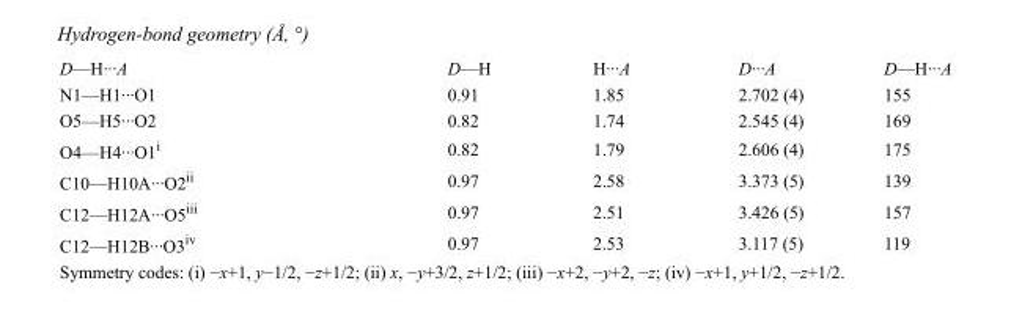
<table><tbody><tr><td>D—H···A</td><td>D—H</td><td>H···A</td><td>D···A</td><td>D—H···A</td></tr><tr><td>N1—H1···O1</td><td>0.91</td><td>1.85</td><td>2.702 (4)</td><td>155</td></tr><tr><td>O5—H5···O2</td><td>0.82</td><td>1.74</td><td>2.545 (4)</td><td>169</td></tr><tr><td>O4—H4···O1<sup>i</sup></td><td>0.82</td><td>1.79</td><td>2.606 (4)</td><td>175</td></tr><tr><td>C10—H10A···O2<sup>ii</sup></td><td>0.97</td><td>2.58</td><td>3.373 (5)</td><td>139</td></tr><tr><td>C12—H12A···O5<sup>iii</sup></td><td>0.97</td><td>2.51</td><td>3.426 (5)</td><td>157</td></tr><tr><td>C12—H12B···O3<sup>iv</sup></td><td>0.97</td><td>2.53</td><td>3.117 (5)</td><td>119</td></tr></tbody></table>